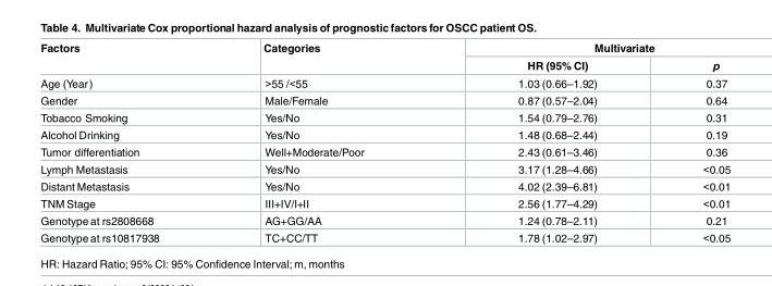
<table><thead><tr><td rowspan="2">Factors</td><td rowspan="2">Categories</td><td colspan="2">Multivariate</td></tr><tr><td>HR (95% CI)</td><td>p</td></tr></thead><tbody><tr><td>Age (Year)</td><td>&gt;55 /&lt;55</td><td>1.03 (0.66–1.92)</td><td>0.37</td></tr><tr><td>Gender</td><td>Male/Female</td><td>0.87 (0.57–2.04)</td><td>0.64</td></tr><tr><td>Tobacco Smoking</td><td>Yes/No</td><td>1.54 (0.79–2.76)</td><td>0.31</td></tr><tr><td>Alcohol Drinking</td><td>Yes/No</td><td>1.48 (0.68–2.44)</td><td>0.19</td></tr><tr><td>Tumor differentiation</td><td>Well+Moderate/Poor</td><td>2.43 (0.61–3.46)</td><td>0.36</td></tr><tr><td>Lymph Metastasis</td><td>Yes/No</td><td>3.17 (1.28–4.66)</td><td>&lt;0.05</td></tr><tr><td>Distant Metastasis</td><td>Yes/No</td><td>4.02 (2.39–6.81)</td><td>&lt;0.01</td></tr><tr><td>TNM Stage</td><td>III+IV/I+II</td><td>2.56 (1.77–4.29)</td><td>&lt;0.01</td></tr><tr><td>Genotype at rs2808668</td><td>AG+GG/AA</td><td>1.24 (0.78–2.11)</td><td>0.21</td></tr><tr><td>Genotype at rs10817938</td><td>TC+CC/TT</td><td>1.78 (1.02–2.97)</td><td>&lt;0.05</td></tr></tbody></table>